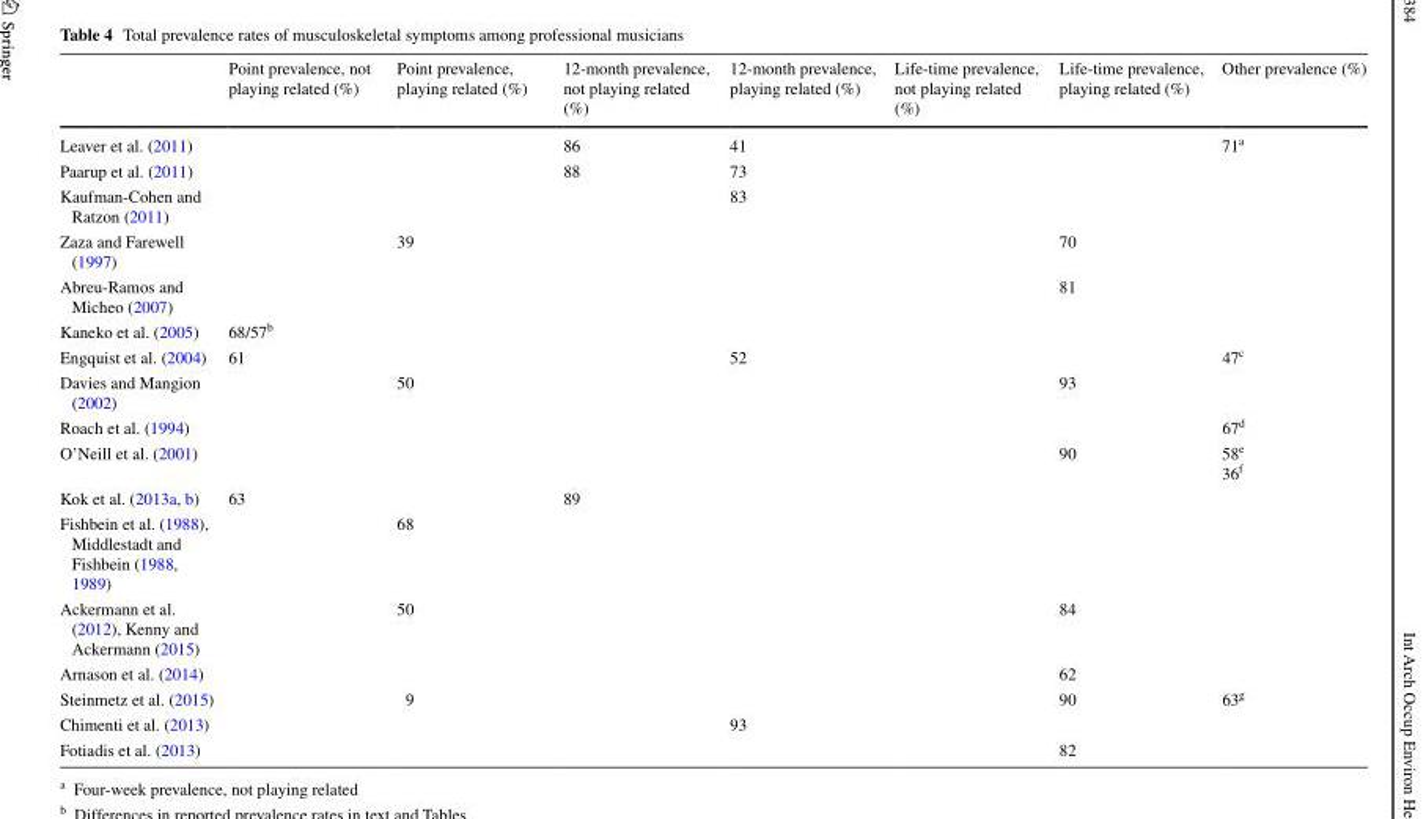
<table><thead><tr><td></td><td>Point prevalence, not playing related (%)</td><td>Point prevalence, playing related (%)</td><td>12-month prevalence, not playing related (%)</td><td>12-month prevalence, playing related (%)</td><td>Life-time prevalence, not playing related (%)</td><td>Life-time prevalence, playing related (%)</td><td>Other prevalence (%)</td></tr></thead><tbody><tr><td>Leaver et al. (2011)</td><td></td><td></td><td>86</td><td>41</td><td></td><td></td><td>71<sup>a</sup></td></tr><tr><td>Paarup et al. (2011)</td><td></td><td></td><td>88</td><td>73</td><td></td><td></td><td></td></tr><tr><td>Kaufman-Cohen and Ratzon (2011)</td><td></td><td></td><td></td><td>83</td><td></td><td></td><td></td></tr><tr><td>Zaza and Farewell (1997)</td><td></td><td>39</td><td></td><td></td><td></td><td>70</td><td></td></tr><tr><td>Abreu-Ramos and Micheo (2007)</td><td></td><td></td><td></td><td></td><td></td><td>81</td><td></td></tr><tr><td>Kaneko et al. (2005)</td><td>68/57<sup>b</sup></td><td></td><td></td><td></td><td></td><td></td><td></td></tr><tr><td>Engquist et al. (2004)</td><td>61</td><td></td><td></td><td>52</td><td></td><td></td><td>47<sup>c</sup></td></tr><tr><td>Davies and Mangion (2002)</td><td></td><td>50</td><td></td><td></td><td></td><td>93</td><td></td></tr><tr><td>Roach et al. (1994)</td><td></td><td></td><td></td><td></td><td></td><td></td><td>67<sup>d</sup></td></tr><tr><td>O’Neill et al. (2001)</td><td></td><td></td><td></td><td></td><td></td><td>90</td><td>58<sup>e</sup> 36<sup>f</sup></td></tr><tr><td>Kok et al. (2013a, b)</td><td>63</td><td></td><td>89</td><td></td><td></td><td></td><td></td></tr><tr><td>Fishbein et al. (1988), Middlestadt and Fishbein (1988, 1989)</td><td></td><td>68</td><td></td><td></td><td></td><td></td><td></td></tr><tr><td>Ackermann et al. (2012), Kenny and Ackermann (2015)</td><td></td><td>50</td><td></td><td></td><td></td><td>84</td><td></td></tr><tr><td>Arnason et al. (2014)</td><td></td><td></td><td></td><td></td><td></td><td>62</td><td></td></tr><tr><td>Steinmetz et al. (2015)</td><td></td><td>9</td><td></td><td></td><td></td><td>90</td><td>63<sup>g</sup></td></tr><tr><td>Chimenti et al. (2013)</td><td></td><td></td><td></td><td>93</td><td></td><td></td><td></td></tr><tr><td>Fotiadis et al. (2013)</td><td></td><td></td><td></td><td></td><td></td><td>82</td><td></td></tr></tbody></table>